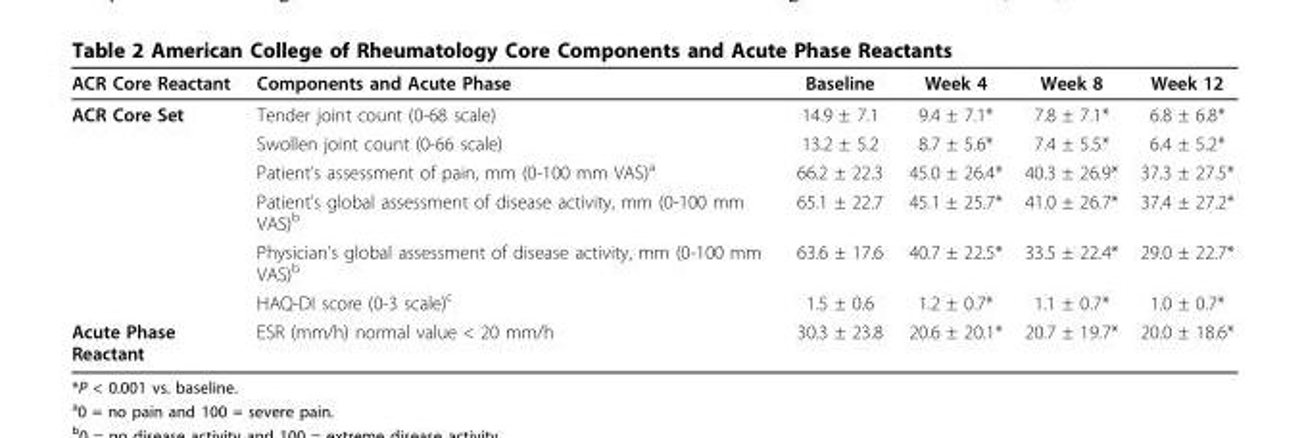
<table><thead><tr><td>ACR Core Reactant</td><td>Components and Acute Phase</td><td>Baseline</td><td>Week 4</td><td>Week 8</td><td>Week 12</td></tr></thead><tbody><tr><td rowspan="6">ACR Core Set</td><td>Tender joint count (0-68 scale)</td><td>14.9 ± 7.1</td><td>9.4 ± 7.1*</td><td>7.8 ± 7.1*</td><td>6.8 ± 6.8*</td></tr><tr><td>Swollen joint count (0-66 scale)</td><td>13.2 ± 5.2</td><td>8.7 ± 5.6*</td><td>7.4 ± 5.5*</td><td>6.4 ± 5.2*</td></tr><tr><td>Patient’s assessment of pain, mm (0-100 mm VAS)<sup>a</sup></td><td>66.2 ± 22.3</td><td>45.0 ± 26.4*</td><td>40.3 ± 26.9*</td><td>37.3 ± 27.5*</td></tr><tr><td>Patient’s global assessment of disease activity, mm (0-100 mm VAS)<sup>b</sup></td><td>65.1 ± 22.7</td><td>45.1 ± 25.7*</td><td>41.0 ± 26.7*</td><td>37.4 ± 27.2*</td></tr><tr><td>Physician’s global assessment of disease activity, mm (0-100 mm VAS)<sup>b</sup></td><td>63.6 ± 17.6</td><td>40.7 ± 22.5*</td><td>33.5 ± 22.4*</td><td>29.0 ± 22.7*</td></tr><tr><td>HAQ-DI score (0-3 scale)<sup>c</sup></td><td>1.5 ± 0.6</td><td>1.2 ± 0.7*</td><td>1.1 ± 0.7*</td><td>1.0 ± 0.7*</td></tr><tr><td>Acute Phase Reactant</td><td>ESR (mm/h) normal value &lt; 20 mm/h</td><td>30.3 ± 23.8</td><td>20.6 ± 20.1*</td><td>20.7 ± 19.7*</td><td>20.0 ± 18.6*</td></tr></tbody></table>